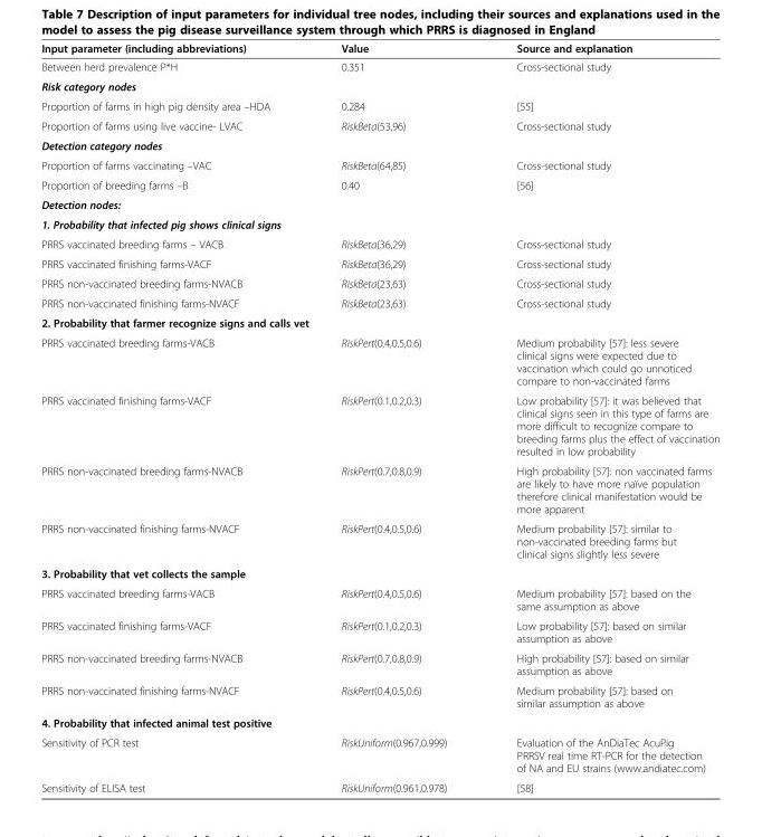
<table><thead><tr><td>Input parameter (including abbreviations)</td><td>Value</td><td>Source and explanation</td></tr></thead><tbody><tr><td>Between herd prevalence P*H</td><td>0.351</td><td>Cross-sectional study</td></tr><tr><td colspan="3">Risk category nodes</td></tr><tr><td>Proportion of farms in high pig density area –HDA</td><td>0.284</td><td>[55]</td></tr><tr><td>Proportion of farms using live vaccine- LVAC</td><td>RiskBeta(53,96)</td><td>Cross-sectional study</td></tr><tr><td colspan="3">Detection category nodes</td></tr><tr><td>Proportion of farms vaccinating –VAC</td><td>RiskBeta(64,85)</td><td>Cross-sectional study</td></tr><tr><td>Proportion of breeding farms –B</td><td>0.40</td><td>[56]</td></tr><tr><td colspan="3">Detection nodes:</td></tr><tr><td colspan="3">1. Probability that infected pig shows clinical signs</td></tr><tr><td>PRRS vaccinated breeding farms – VACB</td><td>RiskBeta(36,29)</td><td>Cross-sectional study</td></tr><tr><td>PRRS vaccinated finishing farms-VACF</td><td>RiskBeta(36,29)</td><td>Cross-sectional study</td></tr><tr><td>PRRS non-vaccinated breeding farms-NVACB</td><td>RiskBeta(23,63)</td><td>Cross-sectional study</td></tr><tr><td>PRRS non-vaccinated finishing farms-NVACF</td><td>RiskBeta(23,63)</td><td>Cross-sectional study</td></tr><tr><td colspan="3">2. Probability that farmer recognize signs and calls vet</td></tr><tr><td>PRRS vaccinated breeding farms-VACB</td><td>RiskPert(0.4,0.5,0.6)</td><td>Medium probability [57]: less severe clinical signs were expected due to vaccination which could go unnoticed compare to non-vaccinated farms</td></tr><tr><td>PRRS vaccinated finishing farms-VACF</td><td>RiskPert(0.1,0.2,0.3)</td><td>Low probability [57]: it was believed that clinical signs seen in this type of farms are more difficult to recognize compare to breeding farms plus the effect of vaccination resulted in low probability</td></tr><tr><td>PRRS non-vaccinated breeding farms-NVACB</td><td>RiskPert(0.7,0.8,0.9)</td><td>High probability [57]: non vaccinated farms are likely to have more naïve population therefore clinical manifestation would be more apparent</td></tr><tr><td>PRRS non-vaccinated finishing farms-NVACF</td><td>RiskPert(0.4,0.5,0.6)</td><td>Medium probability [57]: similar to non-vaccinated breeding farms but clinical signs slightly less severe</td></tr><tr><td colspan="3">3. Probability that vet collects the sample</td></tr><tr><td>PRRS vaccinated breeding farms-VACB</td><td>RiskPert(0.4,0.5,0.6)</td><td>Medium probability [57]: based on the same assumption as above</td></tr><tr><td>PRRS vaccinated finishing farms-VACF</td><td>RiskPert(0.1,0.2,0.3)</td><td>Low probability [57]: based on similar assumption as above</td></tr><tr><td>PRRS non-vaccinated breeding farms-NVACB</td><td>RiskPert(0.7,0.8,0.9)</td><td>High probability [57]: based on similar assumption as above</td></tr><tr><td>PRRS non-vaccinated finishing farms-NVACF</td><td>RiskPert(0.4,0.5,0.6)</td><td>Medium probability [57]: based on similar assumption as above</td></tr><tr><td colspan="3">4. Probability that infected animal test positive</td></tr><tr><td>Sensitivity of PCR test</td><td>RiskUniform(0.967,0.999)</td><td>Evaluation of the AnDiaTec AcuPig PRRSV real time RT-PCR for the detection of NA and EU strains (www.andiatec.com)</td></tr><tr><td>Sensitivity of ELISA test</td><td>RiskUniform(0.961,0.978)</td><td>[58]</td></tr></tbody></table>